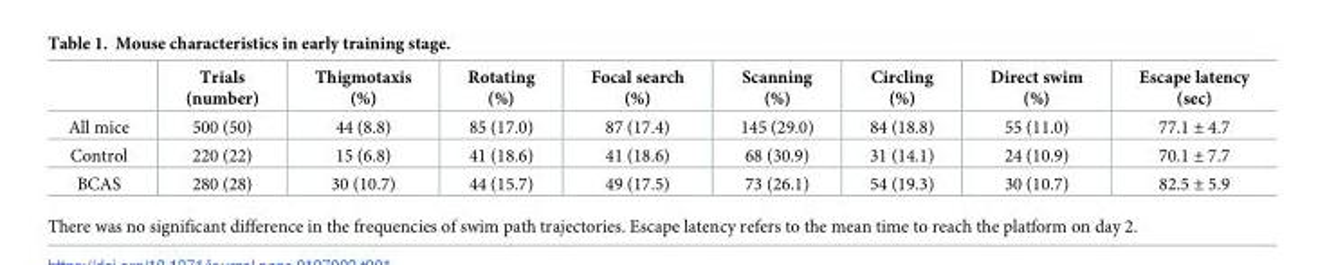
<table><thead><tr><td></td><td>Trials (number)</td><td>Thigmotaxis (%)</td><td>Rotating (%)</td><td>Focal search (%)</td><td>Scanning (%)</td><td>Circling (%)</td><td>Direct swim (%)</td><td>Escape latency (sec)</td></tr></thead><tbody><tr><td>All mice</td><td>500 (50)</td><td>44 (8.8)</td><td>85 (17.0)</td><td>87 (17.4)</td><td>145 (29.0)</td><td>84 (18.8)</td><td>55 (11.0)</td><td>77.1 ± 4.7</td></tr><tr><td>Control</td><td>220 (22)</td><td>15 (6.8)</td><td>41 (18.6)</td><td>41 (18.6)</td><td>68 (30.9)</td><td>31 (14.1)</td><td>24 (10.9)</td><td>70.1 ± 7.7</td></tr><tr><td>BCAS</td><td>280 (28)</td><td>30 (10.7)</td><td>44 (15.7)</td><td>49 (17.5)</td><td>73 (26.1)</td><td>54 (19.3)</td><td>30 (10.7)</td><td>82.5 ± 5.9</td></tr></tbody></table>